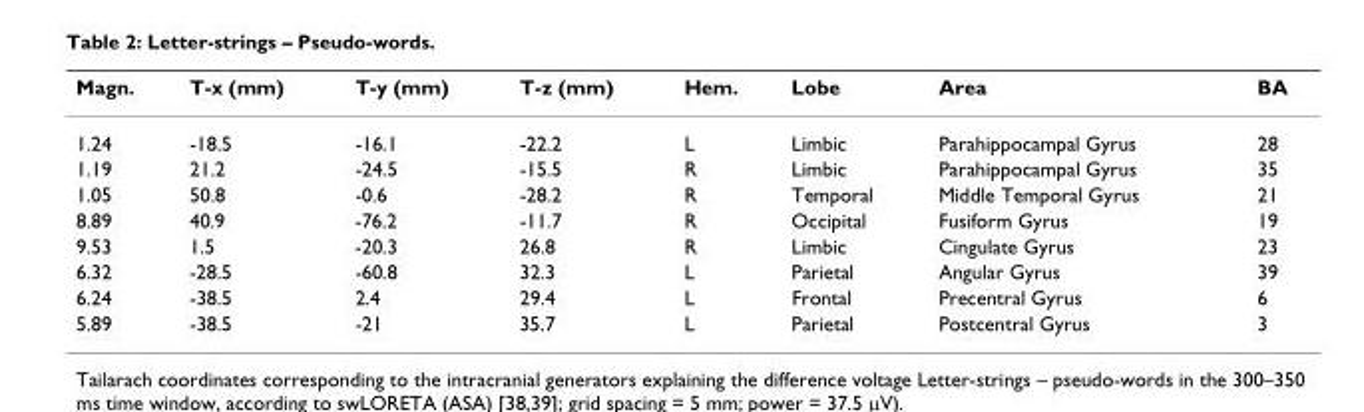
<table><thead><tr><td>Magn.</td><td>T-x (mm)</td><td>T-y (mm)</td><td>T-z (mm)</td><td>Hem.</td><td>Lobe</td><td>Area</td><td>BA</td></tr></thead><tbody><tr><td>1.24</td><td>-18.5</td><td>-16.1</td><td>-22.2</td><td>L</td><td>Limbic</td><td>Parahippocampal Gyrus</td><td>28</td></tr><tr><td>1.19</td><td>21.2</td><td>-24.5</td><td>-15.5</td><td>R</td><td>Limbic</td><td>Parahippocampal Gyrus</td><td>35</td></tr><tr><td>1.05</td><td>50.8</td><td>-0.6</td><td>-28.2</td><td>R</td><td>Temporal</td><td>Middle Temporal Gyrus</td><td>21</td></tr><tr><td>8.89</td><td>40.9</td><td>-76.2</td><td>-11.7</td><td>R</td><td>Occipital</td><td>Fusiform Gyrus</td><td>19</td></tr><tr><td>9.53</td><td>1.5</td><td>-20.3</td><td>26.8</td><td>R</td><td>Limbic</td><td>Cingulate Gyrus</td><td>23</td></tr><tr><td>6.32</td><td>-28.5</td><td>-60.8</td><td>32.3</td><td>L</td><td>Parietal</td><td>Angular Gyrus</td><td>39</td></tr><tr><td>6.24</td><td>-38.5</td><td>2.4</td><td>29.4</td><td>L</td><td>Frontal</td><td>Precentral Gyrus</td><td>6</td></tr><tr><td>5.89</td><td>-38.5</td><td>-21</td><td>35.7</td><td>L</td><td>Parietal</td><td>Postcentral Gyrus</td><td>3</td></tr></tbody></table>